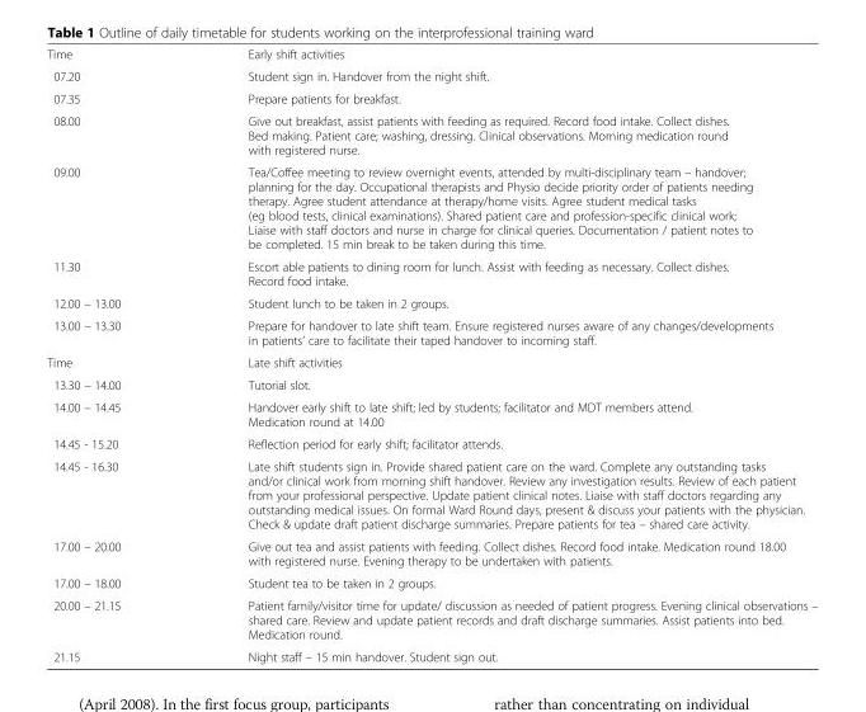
<table><tbody><tr><td>Time</td><td>Early shift activities</td></tr><tr><td>07.20</td><td>Student sign in. Handover from the night shift.</td></tr><tr><td>07.35</td><td>Prepare patients for breakfast.</td></tr><tr><td>08.00</td><td>Give out breakfast, assist patients with feeding as required. Record food intake. Collect dishes. Bed making. Patient care; washing, dressing. Clinical observations. Morning medication round with registered nurse.</td></tr><tr><td>09.00</td><td>Tea/Coffee meeting to review overnight events, attended by multi-disciplinary team – handover; planning for the day. Occupational therapists and Physio decide priority order of patients needing therapy. Agree student attendance at therapy/home visits. Agree student medical tasks (eg blood tests, clinical examinations). Shared patient care and profession-specific clinical work; Liaise with staff doctors and nurse in charge for clinical queries. Documentation / patient notes to be completed. 15 min break to be taken during this time.</td></tr><tr><td>11.30</td><td>Escort able patients to dining room for lunch. Assist with feeding as necessary. Collect dishes. Record food intake.</td></tr><tr><td>12.00 – 13.00</td><td>Student lunch to be taken in 2 groups.</td></tr><tr><td>13.00 – 13.30</td><td>Prepare for handover to late shift team. Ensure registered nurses aware of any changes/developments in patients’ care to facilitate their taped handover to incoming staff.</td></tr><tr><td>Time</td><td>Late shift activities</td></tr><tr><td>13.30 – 14.00</td><td>Tutorial slot.</td></tr><tr><td>14.00 – 14.45</td><td>Handover early shift to late shift; led by students; facilitator and MDT members attend. Medication round at 14.00</td></tr><tr><td>14.45 - 15.20</td><td>Reflection period for early shift; facilitator attends.</td></tr><tr><td>14.45 - 16.30</td><td>Late shift students sign in. Provide shared patient care on the ward. Complete any outstanding tasks and/or clinical work from morning shift handover. Review any investigation results. Review of each patient from your professional perspective. Update patient clinical notes. Liaise with staff doctors regarding any outstanding medical issues. On formal Ward Round days, present &amp; discuss your patients with the physician. Check &amp; update draft patient discharge summaries. Prepare patients for tea – shared care activity.</td></tr><tr><td>17.00 – 20.00</td><td>Give out tea and assist patients with feeding. Collect dishes. Record food intake. Medication round 18.00 with registered nurse. Evening therapy to be undertaken with patients.</td></tr><tr><td>17.00 – 18.00</td><td>Student tea to be taken in 2 groups.</td></tr><tr><td>20.00 – 21.15</td><td>Patient family/visitor time for update/ discussion as needed of patient progress. Evening clinical observations – shared care. Review and update patient records and draft discharge summaries. Assist patients into bed. Medication round.</td></tr><tr><td>21.15</td><td>Night staff – 15 min handover. Student sign out.</td></tr></tbody></table>